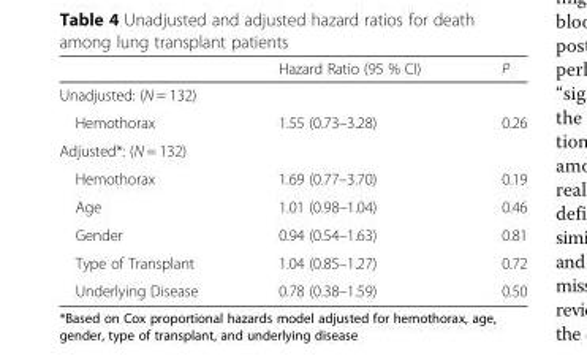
<table><thead><tr><td></td><td>Hazard Ratio (95 % CI)</td><td>P</td></tr></thead><tbody><tr><td colspan="3">Unadjusted: (N = 132)</td></tr><tr><td>Hemothorax</td><td>1.55 (0.73–3.28)</td><td>0.26</td></tr><tr><td colspan="3">Adjusted*: (N = 132)</td></tr><tr><td>Hemothorax</td><td>1.69 (0.77–3.70)</td><td>0.19</td></tr><tr><td>Age</td><td>1.01 (0.98–1.04)</td><td>0.46</td></tr><tr><td>Gender</td><td>0.94 (0.54–1.63)</td><td>0.81</td></tr><tr><td>Type of Transplant</td><td>1.04 (0.85–1.27)</td><td>0.72</td></tr><tr><td>Underlying Disease</td><td>0.78 (0.38–1.59)</td><td>0.50</td></tr></tbody></table>